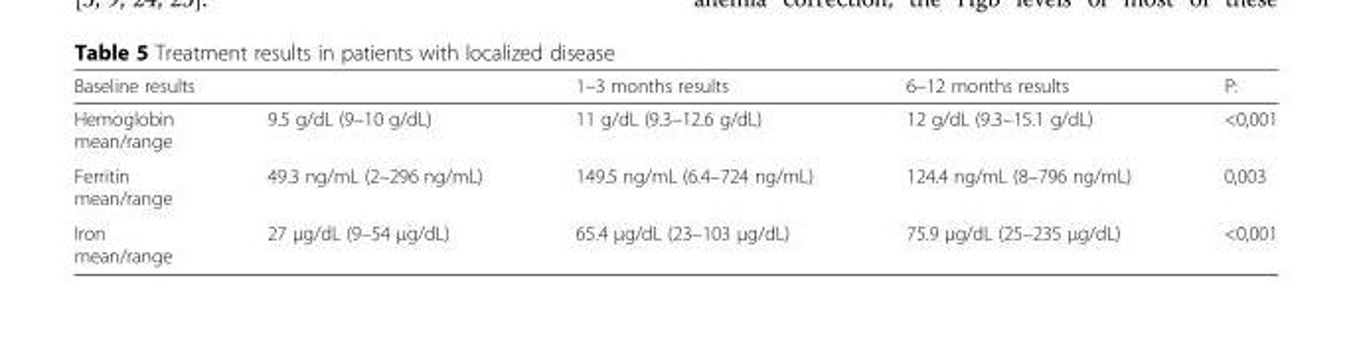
<table><thead><tr><td colspan="2">Baseline results</td><td rowspan="2">1–3 months results 11 g/dL (9.3–12.6 g/dL)</td><td rowspan="2">6–12 months results 12 g/dL (9.3–15.1 g/dL)</td><td rowspan="2">P: &lt;0,001</td></tr><tr><td>Hemoglobin mean/range</td><td>9.5 g/dL (9–10 g/dL)</td></tr></thead><tbody><tr><td>Ferritin mean/range</td><td>49.3 ng/mL (2–296 ng/mL)</td><td>149.5 ng/mL (6.4–724 ng/mL)</td><td>124.4 ng/mL (8–796 ng/mL)</td><td>0,003</td></tr><tr><td>Iron mean/range</td><td>27 μg/dL (9–54 μg/dL)</td><td>65.4 μg/dL (23–103 μg/dL)</td><td>75.9 μg/dL (25–235 μg/dL)</td><td>&lt;0,001</td></tr></tbody></table>